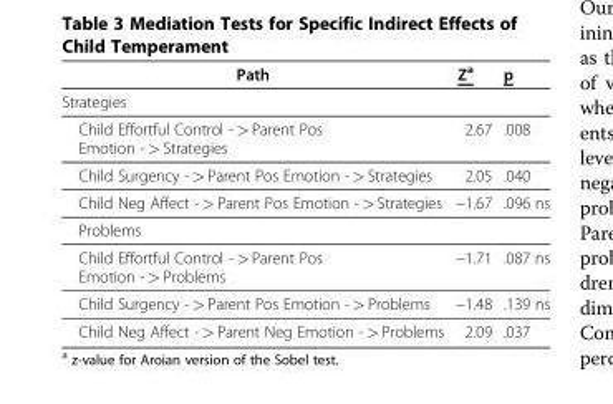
<table><thead><tr><td>Path</td><td>Z<sup>a</sup></td><td>p</td></tr></thead><tbody><tr><td colspan="3">Strategies</td></tr><tr><td>Child Effortful Control - &gt; Parent Pos Emotion - &gt; Strategies</td><td>2.67</td><td>.008</td></tr><tr><td>Child Surgency - &gt; Parent Pos Emotion - &gt; Strategies</td><td>2.05</td><td>.040</td></tr><tr><td>Child Neg Affect - &gt; Parent Pos Emotion - &gt; Strategies</td><td>−1.67</td><td>.096 ns</td></tr><tr><td colspan="3">Problems</td></tr><tr><td>Child Effortful Control - &gt; Parent Pos Emotion - &gt; Problems</td><td>−1.71</td><td>.087 ns</td></tr><tr><td>Child Surgency - &gt; Parent Pos Emotion - &gt; Problems</td><td>−1.48</td><td>.139 ns</td></tr><tr><td>Child Neg Affect - &gt; Parent Neg Emotion - &gt; Problems</td><td>2.09</td><td>.037</td></tr></tbody></table>